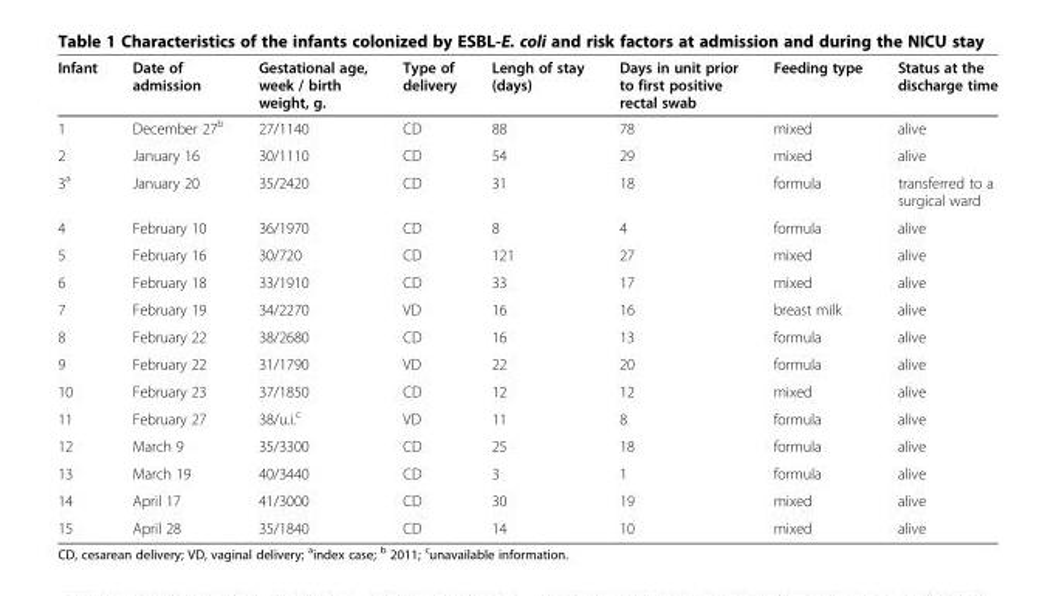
<table><thead><tr><td>Infant</td><td>Date of admission</td><td>Gestational age, week / birth weight, g.</td><td>Type of delivery</td><td>Lengh of stay (days)</td><td>Days in unit prior to first positive rectal swab</td><td>Feeding type</td><td>Status at the discharge time</td></tr></thead><tbody><tr><td>1</td><td>December 27<sup>b</sup></td><td>27/1140</td><td>CD</td><td>88</td><td>78</td><td>mixed</td><td>alive</td></tr><tr><td>2</td><td>January 16</td><td>30/1110</td><td>CD</td><td>54</td><td>29</td><td>mixed</td><td>alive</td></tr><tr><td>3<sup>a</sup></td><td>January 20</td><td>35/2420</td><td>CD</td><td>31</td><td>18</td><td>formula</td><td>transferred to a surgical ward</td></tr><tr><td>4</td><td>February 10</td><td>36/1970</td><td>CD</td><td>8</td><td>4</td><td>formula</td><td>alive</td></tr><tr><td>5</td><td>February 16</td><td>30/720</td><td>CD</td><td>121</td><td>27</td><td>mixed</td><td>alive</td></tr><tr><td>6</td><td>February 18</td><td>33/1910</td><td>CD</td><td>33</td><td>17</td><td>mixed</td><td>alive</td></tr><tr><td>7</td><td>February 19</td><td>34/2270</td><td>VD</td><td>16</td><td>16</td><td>breast milk</td><td>alive</td></tr><tr><td>8</td><td>February 22</td><td>38/2680</td><td>CD</td><td>16</td><td>13</td><td>formula</td><td>alive</td></tr><tr><td>9</td><td>February 22</td><td>31/1790</td><td>VD</td><td>22</td><td>20</td><td>formula</td><td>alive</td></tr><tr><td>10</td><td>February 23</td><td>37/1850</td><td>CD</td><td>12</td><td>12</td><td>mixed</td><td>alive</td></tr><tr><td>11</td><td>February 27</td><td>38/u.i.<sup>c</sup></td><td>VD</td><td>11</td><td>8</td><td>formula</td><td>alive</td></tr><tr><td>12</td><td>March 9</td><td>35/3300</td><td>CD</td><td>25</td><td>18</td><td>formula</td><td>alive</td></tr><tr><td>13</td><td>March 19</td><td>40/3440</td><td>CD</td><td>3</td><td>1</td><td>formula</td><td>alive</td></tr><tr><td>14</td><td>April 17</td><td>41/3000</td><td>CD</td><td>30</td><td>19</td><td>mixed</td><td>alive</td></tr><tr><td>15</td><td>April 28</td><td>35/1840</td><td>CD</td><td>14</td><td>10</td><td>mixed</td><td>alive</td></tr></tbody></table>